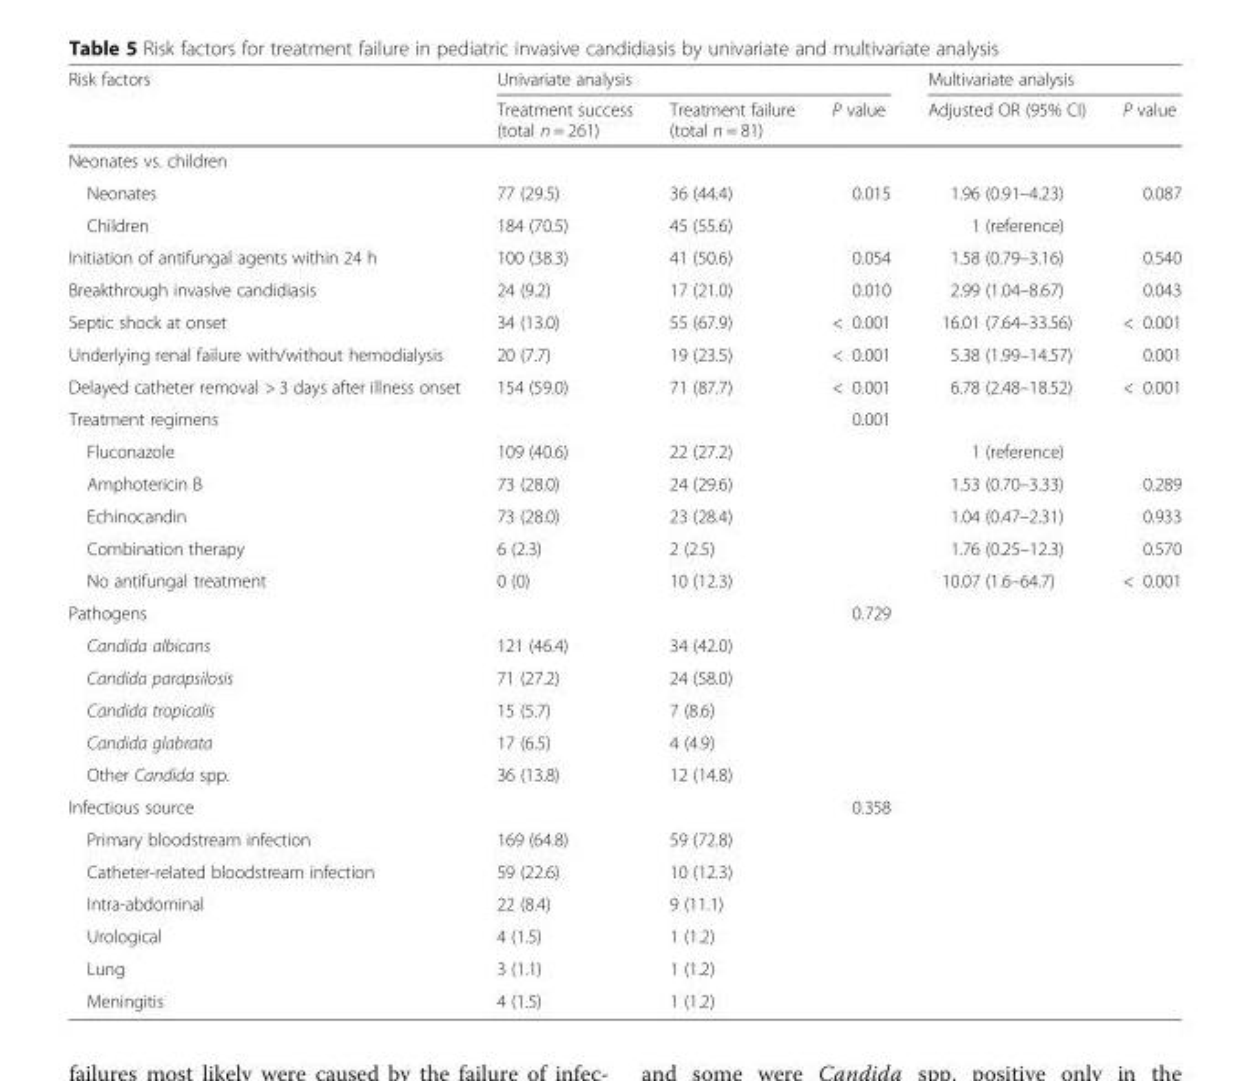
<table><thead><tr><td rowspan="2">Risk factors</td><td colspan="3">Univariate analysis</td><td colspan="2">Multivariate analysis</td></tr><tr><td>Treatment success (total n = 261)</td><td>Treatment failure (total n = 81)</td><td>P value</td><td>Adjusted OR (95% CI)</td><td>P value</td></tr></thead><tbody><tr><td colspan="6">Neonates vs. children</td></tr><tr><td>Neonates</td><td>77 (29.5)</td><td>36 (44.4)</td><td>0.015</td><td>1.96 (0.91–4.23)</td><td>0.087</td></tr><tr><td>Children</td><td>184 (70.5)</td><td>45 (55.6)</td><td></td><td>1 (reference)</td><td></td></tr><tr><td>Initiation of antifungal agents within 24 h</td><td>100 (38.3)</td><td>41 (50.6)</td><td>0.054</td><td>1.58 (0.79–3.16)</td><td>0.540</td></tr><tr><td>Breakthrough invasive candidiasis</td><td>24 (9.2)</td><td>17 (21.0)</td><td>0.010</td><td>2.99 (1.04–8.67)</td><td>0.043</td></tr><tr><td>Septic shock at onset</td><td>34 (13.0)</td><td>55 (67.9)</td><td>&lt; 0.001</td><td>16.01 (7.64–33.56)</td><td>&lt; 0.001</td></tr><tr><td>Underlying renal failure with/without hemodialysis</td><td>20 (7.7)</td><td>19 (23.5)</td><td>&lt; 0.001</td><td>5.38 (1.99–14.57)</td><td>0.001</td></tr><tr><td>Delayed catheter removal &gt; 3 days after illness onset</td><td>154 (59.0)</td><td>71 (87.7)</td><td>&lt; 0.001</td><td>6.78 (2.48–18.52)</td><td>&lt; 0.001</td></tr><tr><td>Treatment regimens</td><td></td><td></td><td>0.001</td><td></td><td></td></tr><tr><td>Fluconazole</td><td>109 (40.6)</td><td>22 (27.2)</td><td></td><td>1 (reference)</td><td></td></tr><tr><td>Amphotericin B</td><td>73 (28.0)</td><td>24 (29.6)</td><td></td><td>1.53 (0.70–3.33)</td><td>0.289</td></tr><tr><td>Echinocandin</td><td>73 (28.0)</td><td>23 (28.4)</td><td></td><td>1.04 (0.47–2.31)</td><td>0.933</td></tr><tr><td>Combination therapy</td><td>6 (2.3)</td><td>2 (2.5)</td><td></td><td>1.76 (0.25–12.3)</td><td>0.570</td></tr><tr><td>No antifungal treatment</td><td>0 (0)</td><td>10 (12.3)</td><td></td><td>10.07 (1.6–64.7)</td><td>&lt; 0.001</td></tr><tr><td>Pathogens</td><td></td><td></td><td>0.729</td><td></td><td></td></tr><tr><td>Candida albicans</td><td>121 (46.4)</td><td>34 (42.0)</td><td></td><td></td><td></td></tr><tr><td>Candida parapsilosis</td><td>71 (27.2)</td><td>24 (58.0)</td><td></td><td></td><td></td></tr><tr><td>Candida tropicalis</td><td>15 (5.7)</td><td>7 (8.6)</td><td></td><td></td><td></td></tr><tr><td>Candida glabrata</td><td>17 (6.5)</td><td>4 (4.9)</td><td></td><td></td><td></td></tr><tr><td>Other Candida spp.</td><td>36 (13.8)</td><td>12 (14.8)</td><td></td><td></td><td></td></tr><tr><td>Infectious source</td><td></td><td></td><td>0.358</td><td></td><td></td></tr><tr><td>Primary bloodstream infection</td><td>169 (64.8)</td><td>59 (72.8)</td><td></td><td></td><td></td></tr><tr><td>Catheter-related bloodstream infection</td><td>59 (22.6)</td><td>10 (12.3)</td><td></td><td></td><td></td></tr><tr><td>Intra-abdominal</td><td>22 (8.4)</td><td>9 (11.1)</td><td></td><td></td><td></td></tr><tr><td>Urological</td><td>4 (1.5)</td><td>1 (1.2)</td><td></td><td></td><td></td></tr><tr><td>Lung</td><td>3 (1.1)</td><td>1 (1.2)</td><td></td><td></td><td></td></tr><tr><td>Meningitis</td><td>4 (1.5)</td><td>1 (1.2)</td><td></td><td></td><td></td></tr></tbody></table>